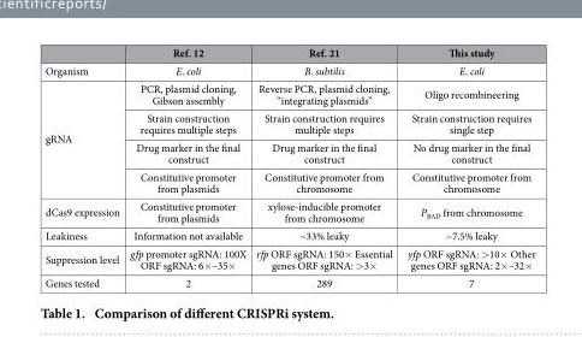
<table><thead><tr><td></td><td>Ref. 12</td><td>Ref. 21</td><td>This study</td></tr></thead><tbody><tr><td>Organism</td><td>E. coli</td><td>B. subtilis</td><td>E. coli</td></tr><tr><td rowspan="4">gRNA</td><td>PCR, plasmid cloning, Gibson assembly</td><td>Reverse PCR, plasmid cloning, “integrating plasmids”</td><td>Oligo recombineering</td></tr><tr><td>Strain construction requires multiple steps</td><td>Strain construction requires multiple steps</td><td>Strain construction requires single step</td></tr><tr><td>Drug marker in the final construct</td><td>Drug marker in the final construct</td><td>No drug marker in the final construct</td></tr><tr><td>Constitutive promoter from plasmids</td><td>Constitutive promoter from chromosome</td><td>Constitutive promoter from chromosome</td></tr><tr><td>dCas9 expression</td><td>Constitutive promoter from plasmids</td><td>xylose-inducible promoter from chromosome</td><td>P<sub>BAD</sub> from chromosome</td></tr><tr><td>Leakiness</td><td>Information not available</td><td>~33% leaky</td><td>~7.5% leaky</td></tr><tr><td>Suppression level</td><td>gfp promoter sgRNA: 100X ORF sgRNA: 6× –35×</td><td>rfp ORF sgRNA: 150× Essential genes ORF sgRNA: &gt; 3×</td><td>yfp ORF sgRNA: &gt; 10× Other genes ORF sgRNA: 2× –32×</td></tr><tr><td>Genes tested</td><td>2</td><td>289</td><td>7</td></tr></tbody></table>